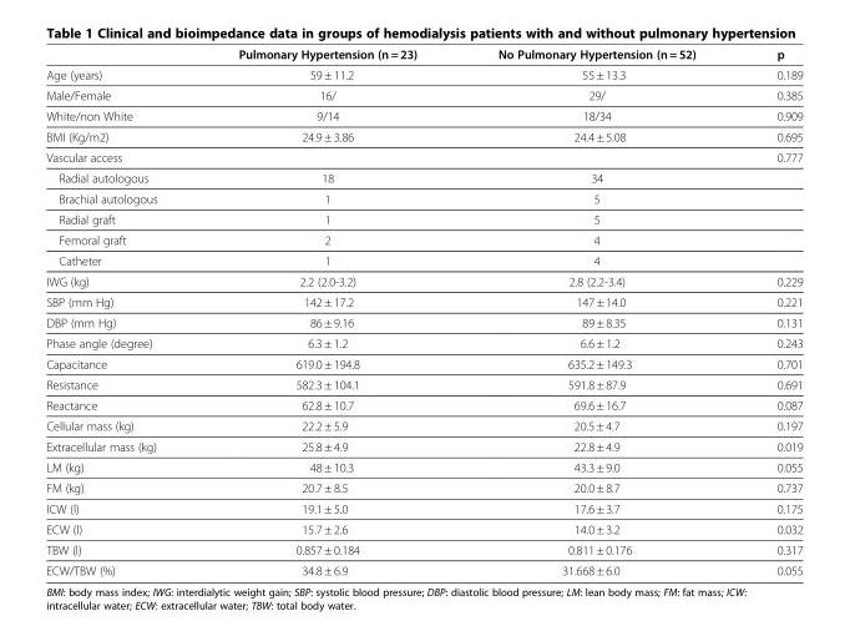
<table><thead><tr><td></td><td>Pulmonary Hypertension (n = 23)</td><td>No Pulmonary Hypertension (n = 52)</td><td>p</td></tr></thead><tbody><tr><td>Age (years)</td><td>59 ± 11.2</td><td>55 ± 13.3</td><td>0.189</td></tr><tr><td>Male/Female</td><td>16/</td><td>29/</td><td>0.385</td></tr><tr><td>White/non White</td><td>9/14</td><td>18/34</td><td>0.909</td></tr><tr><td>BMI (Kg/m2)</td><td>24.9 ± 3.86</td><td>24.4 ± 5.08</td><td>0.695</td></tr><tr><td>Vascular access</td><td></td><td></td><td>0.777</td></tr><tr><td>Radial autologous</td><td>18</td><td>34</td><td></td></tr><tr><td>Brachial autologous</td><td>1</td><td>5</td><td></td></tr><tr><td>Radial graft</td><td>1</td><td>5</td><td></td></tr><tr><td>Femoral graft</td><td>2</td><td>4</td><td></td></tr><tr><td>Catheter</td><td>1</td><td>4</td><td></td></tr><tr><td>IWG (kg)</td><td>2.2 (2.0-3.2)</td><td>2.8 (2.2-3.4)</td><td>0.229</td></tr><tr><td>SBP (mm Hg)</td><td>142 ± 17.2</td><td>147 ± 14.0</td><td>0.221</td></tr><tr><td>DBP (mm Hg)</td><td>86 ± 9.16</td><td>89 ± 8.35</td><td>0.131</td></tr><tr><td>Phase angle (degree)</td><td>6.3 ± 1.2</td><td>6.6 ± 1.2</td><td>0.243</td></tr><tr><td>Capacitance</td><td>619.0 ± 194.8</td><td>635.2 ± 149.3</td><td>0.701</td></tr><tr><td>Resistance</td><td>582.3 ± 104.1</td><td>591.8 ± 87.9</td><td>0.691</td></tr><tr><td>Reactance</td><td>62.8 ± 10.7</td><td>69.6 ± 16.7</td><td>0.087</td></tr><tr><td>Cellular mass (kg)</td><td>22.2 ± 5.9</td><td>20.5 ± 4.7</td><td>0.197</td></tr><tr><td>Extracellular mass (kg)</td><td>25.8 ± 4.9</td><td>22.8 ± 4.9</td><td>0.019</td></tr><tr><td>LM (kg)</td><td>48 ± 10.3</td><td>43.3 ± 9.0</td><td>0.055</td></tr><tr><td>FM (kg)</td><td>20.7 ± 8.5</td><td>20.0 ± 8.7</td><td>0.737</td></tr><tr><td>ICW (l)</td><td>19.1 ± 5.0</td><td>17.6 ± 3.7</td><td>0.175</td></tr><tr><td>ECW (l)</td><td>15.7 ± 2.6</td><td>14.0 ± 3.2</td><td>0.032</td></tr><tr><td>TBW (l)</td><td>0.857 ± 0.184</td><td>0.811 ± 0.176</td><td>0.317</td></tr><tr><td>ECW/TBW (%)</td><td>34.8 ± 6.9</td><td>31.668 ± 6.0</td><td>0.055</td></tr></tbody></table>